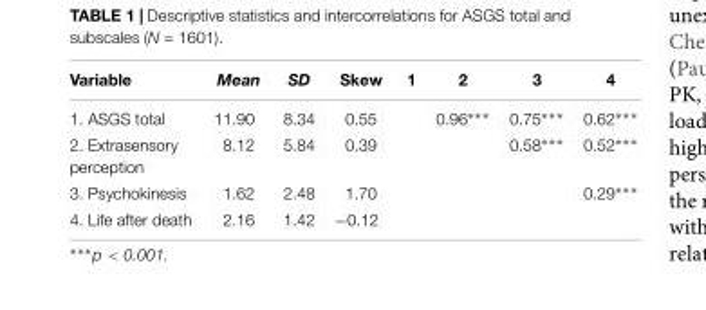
<table><thead><tr><td>Variable</td><td>Mean</td><td>SD</td><td>Skew</td><td>1</td><td>2</td><td>3</td><td>4</td></tr></thead><tbody><tr><td>1. ASGS total</td><td>11.90</td><td>8.34</td><td>0.55</td><td></td><td>0.96∗∗∗</td><td>0.75∗∗∗</td><td>0.62∗∗∗</td></tr><tr><td>2. Extrasensory perception</td><td>8.12</td><td>5.84</td><td>0.39</td><td></td><td></td><td>0.58∗∗∗</td><td>0.52∗∗∗</td></tr><tr><td>3. Psychokinesis</td><td>1.62</td><td>2.48</td><td>1.70</td><td></td><td></td><td></td><td>0.29∗∗∗</td></tr><tr><td>4. Life after death</td><td>2.16</td><td>1.42</td><td>−0.12</td><td></td><td></td><td></td><td></td></tr></tbody></table>